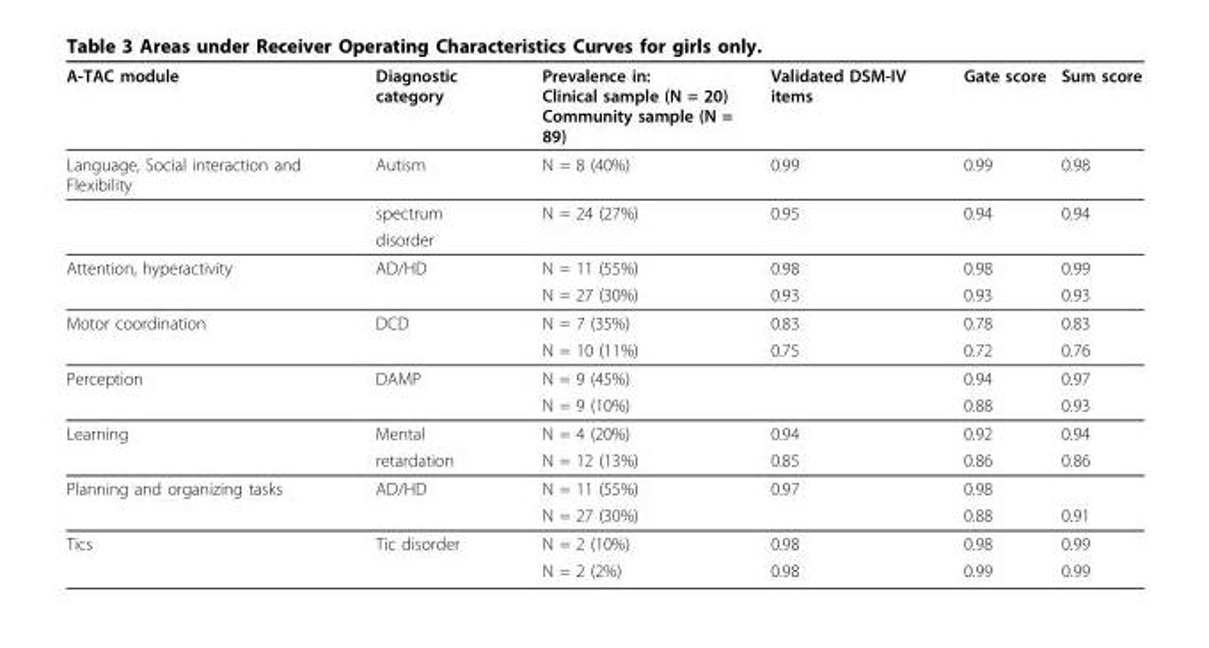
<table><thead><tr><td>A-TAC module</td><td>Diagnostic category</td><td>Prevalence in: Clinical sample (N = 20) Community sample (N = 89)</td><td>Validated DSM-IV items</td><td>Gate score</td><td>Sum score</td></tr></thead><tbody><tr><td rowspan="3">Language, Social interaction and Flexibility</td><td>Autism</td><td>N = 8 (40%)</td><td>0.99</td><td>0.99</td><td>0.98</td></tr><tr><td>spectrum</td><td>N = 24 (27%)</td><td>0.95</td><td>0.94</td><td>0.94</td></tr><tr><td>disorder</td><td></td><td></td><td></td><td></td></tr><tr><td rowspan="2">Attention, hyperactivity</td><td>AD/HD</td><td>N = 11 (55%)</td><td>0.98</td><td>0.98</td><td>0.99</td></tr><tr><td></td><td>N = 27 (30%)</td><td>0.93</td><td>0.93</td><td>0.93</td></tr><tr><td rowspan="2">Motor coordination</td><td>DCD</td><td>N = 7 (35%)</td><td>0.83</td><td>0.78</td><td>0.83</td></tr><tr><td></td><td>N = 10 (11%)</td><td>0.75</td><td>0.72</td><td>0.76</td></tr><tr><td rowspan="2">Perception</td><td>DAMP</td><td>N = 9 (45%)</td><td></td><td>0.94</td><td>0.97</td></tr><tr><td></td><td>N = 9 (10%)</td><td></td><td>0.88</td><td>0.93</td></tr><tr><td rowspan="2">Learning</td><td>Mental</td><td>N = 4 (20%)</td><td>0.94</td><td>0.92</td><td>0.94</td></tr><tr><td>retardation</td><td>N = 12 (13%)</td><td>0.85</td><td>0.86</td><td>0.86</td></tr><tr><td rowspan="2">Planning and organizing tasks</td><td>AD/HD</td><td>N = 11 (55%)</td><td>0.97</td><td>0.98</td><td></td></tr><tr><td></td><td>N = 27 (30%)</td><td></td><td>0.88</td><td>0.91</td></tr><tr><td rowspan="2">Tics</td><td>Tic disorder</td><td>N = 2 (10%)</td><td>0.98</td><td>0.98</td><td>0.99</td></tr><tr><td></td><td>N = 2 (2%)</td><td>0.98</td><td>0.99</td><td>0.99</td></tr></tbody></table>